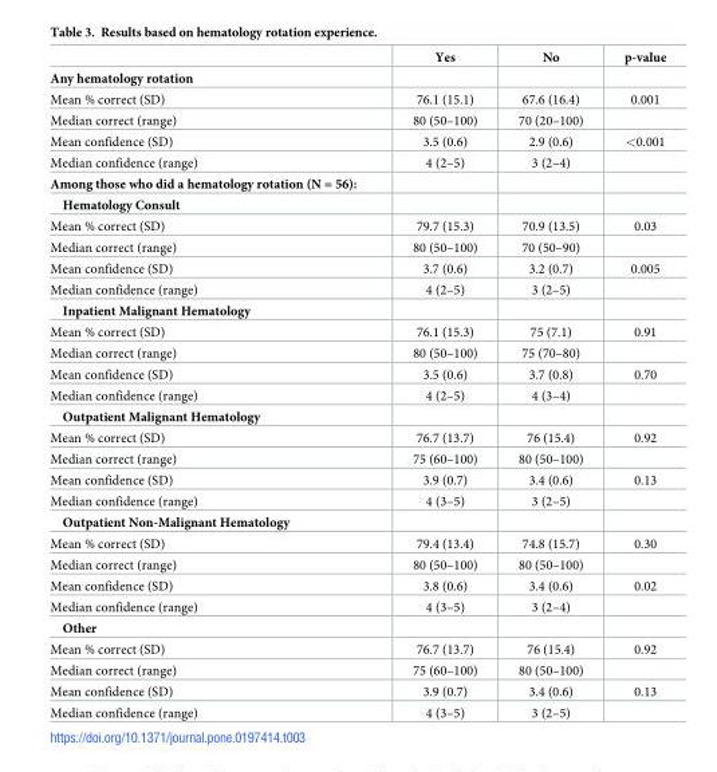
<table><thead><tr><td></td><td>Yes</td><td>No</td><td>p-value</td></tr></thead><tbody><tr><td colspan="4">Any hematology rotation</td></tr><tr><td>Mean % correct (SD)</td><td>76.1 (15.1)</td><td>67.6 (16.4)</td><td>0.001</td></tr><tr><td>Median correct (range)</td><td>80 (50–100)</td><td>70 (20–100)</td><td></td></tr><tr><td>Mean confidence (SD)</td><td>3.5 (0.6)</td><td>2.9 (0.6)</td><td>&lt;0.001</td></tr><tr><td>Median confidence (range)</td><td>4 (2–5)</td><td>3 (2–4)</td><td></td></tr><tr><td colspan="4">Among those who did a hematology rotation (N = 56):</td></tr><tr><td colspan="4">Hematology Consult</td></tr><tr><td>Mean % correct (SD)</td><td>79.7 (15.3)</td><td>70.9 (13.5)</td><td>0.03</td></tr><tr><td>Median correct (range)</td><td>80 (50–100)</td><td>70 (50–90)</td><td></td></tr><tr><td>Mean confidence (SD)</td><td>3.7 (0.6)</td><td>3.2 (0.7)</td><td>0.005</td></tr><tr><td>Median confidence (range)</td><td>4 (2–5)</td><td>3 (2–5)</td><td></td></tr><tr><td colspan="4">Inpatient Malignant Hematology</td></tr><tr><td>Mean % correct (SD)</td><td>76.1 (15.3)</td><td>75 (7.1)</td><td>0.91</td></tr><tr><td>Median correct (range)</td><td>80 (50–100)</td><td>75 (70–80)</td><td></td></tr><tr><td>Mean confidence (SD)</td><td>3.5 (0.6)</td><td>3.7 (0.8)</td><td>0.70</td></tr><tr><td>Median confidence (range)</td><td>4 (2–5)</td><td>4 (3–4)</td><td></td></tr><tr><td colspan="4">Outpatient Malignant Hematology</td></tr><tr><td>Mean % correct (SD)</td><td>76.7 (13.7)</td><td>76 (15.4)</td><td>0.92</td></tr><tr><td>Median correct (range)</td><td>75 (60–100)</td><td>80 (50–100)</td><td></td></tr><tr><td>Mean confidence (SD)</td><td>3.9 (0.7)</td><td>3.4 (0.6)</td><td>0.13</td></tr><tr><td>Median confidence (range)</td><td>4 (3–5)</td><td>3 (2–5)</td><td></td></tr><tr><td colspan="4">Outpatient Non-Malignant Hematology</td></tr><tr><td>Mean % correct (SD)</td><td>79.4 (13.4)</td><td>74.8 (15.7)</td><td>0.30</td></tr><tr><td>Median correct (range)</td><td>80 (50–100)</td><td>80 (50–100)</td><td></td></tr><tr><td>Mean confidence (SD)</td><td>3.8 (0.6)</td><td>3.4 (0.6)</td><td>0.02</td></tr><tr><td>Median confidence (range)</td><td>4 (3–5)</td><td>3 (2–4)</td><td></td></tr><tr><td colspan="4">Other</td></tr><tr><td>Mean % correct (SD)</td><td>76.7 (13.7)</td><td>76 (15.4)</td><td>0.92</td></tr><tr><td>Median correct (range)</td><td>75 (60–100)</td><td>80 (50–100)</td><td></td></tr><tr><td>Mean confidence (SD)</td><td>3.9 (0.7)</td><td>3.4 (0.6)</td><td>0.13</td></tr><tr><td>Median confidence (range)</td><td>4 (3–5)</td><td>3 (2–5)</td><td></td></tr></tbody></table>